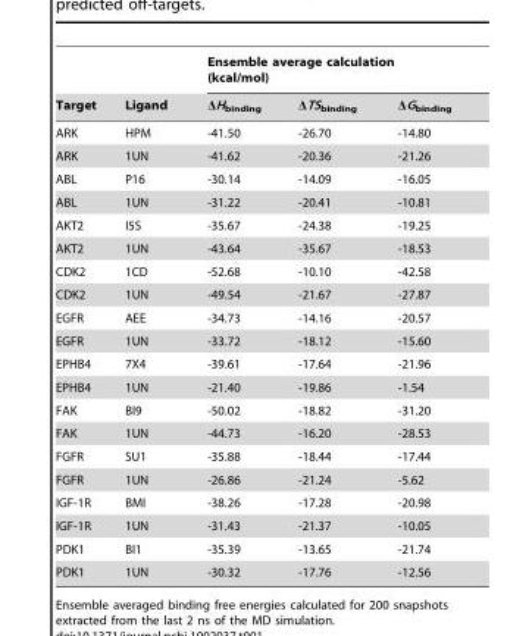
<table><thead><tr><td rowspan="2">Target</td><td rowspan="2">Ligand</td><td colspan="3">Ensemble average calculation (kcal/mol)</td></tr><tr><td>ΔH<sub>binding</sub></td><td>ΔTS<sub>binding</sub></td><td>ΔG<sub>binding</sub></td></tr></thead><tbody><tr><td>ARK</td><td>HPM</td><td>-41.50</td><td>-26.70</td><td>-14.80</td></tr><tr><td>ARK</td><td>1UN</td><td>-41.62</td><td>-20.36</td><td>-21.26</td></tr><tr><td>ABL</td><td>P16</td><td>-30.14</td><td>-14.09</td><td>-16.05</td></tr><tr><td>ABL</td><td>1UN</td><td>-31.22</td><td>-20.41</td><td>-10.81</td></tr><tr><td>AKT2</td><td>I5S</td><td>-35.67</td><td>-24.38</td><td>-19.25</td></tr><tr><td>AKT2</td><td>1UN</td><td>-43.64</td><td>-35.67</td><td>-18.53</td></tr><tr><td>CDK2</td><td>1CD</td><td>-52.68</td><td>-10.10</td><td>-42.58</td></tr><tr><td>CDK2</td><td>1UN</td><td>-49.54</td><td>-21.67</td><td>-27.87</td></tr><tr><td>EGFR</td><td>AEE</td><td>-34.73</td><td>-14.16</td><td>-20.57</td></tr><tr><td>EGFR</td><td>1UN</td><td>-33.72</td><td>-18.12</td><td>-15.60</td></tr><tr><td>EPHB4</td><td>7X4</td><td>-39.61</td><td>-17.64</td><td>-21.96</td></tr><tr><td>EPHB4</td><td>1UN</td><td>-21.40</td><td>-19.86</td><td>-1.54</td></tr><tr><td>FAK</td><td>BI9</td><td>-50.02</td><td>-18.82</td><td>-31.20</td></tr><tr><td>FAK</td><td>1UN</td><td>-44.73</td><td>-16.20</td><td>-28.53</td></tr><tr><td>FGFR</td><td>SU1</td><td>-35.88</td><td>-18.44</td><td>-17.44</td></tr><tr><td>FGFR</td><td>1UN</td><td>-26.86</td><td>-21.24</td><td>-5.62</td></tr><tr><td>IGF-1R</td><td>BMI</td><td>-38.26</td><td>-17.28</td><td>-20.98</td></tr><tr><td>IGF-1R</td><td>1UN</td><td>-31.43</td><td>-21.37</td><td>-10.05</td></tr><tr><td>PDK1</td><td>BI1</td><td>-35.39</td><td>-13.65</td><td>-21.74</td></tr><tr><td>PDK1</td><td>1UN</td><td>-30.32</td><td>-17.76</td><td>-12.56</td></tr></tbody></table>